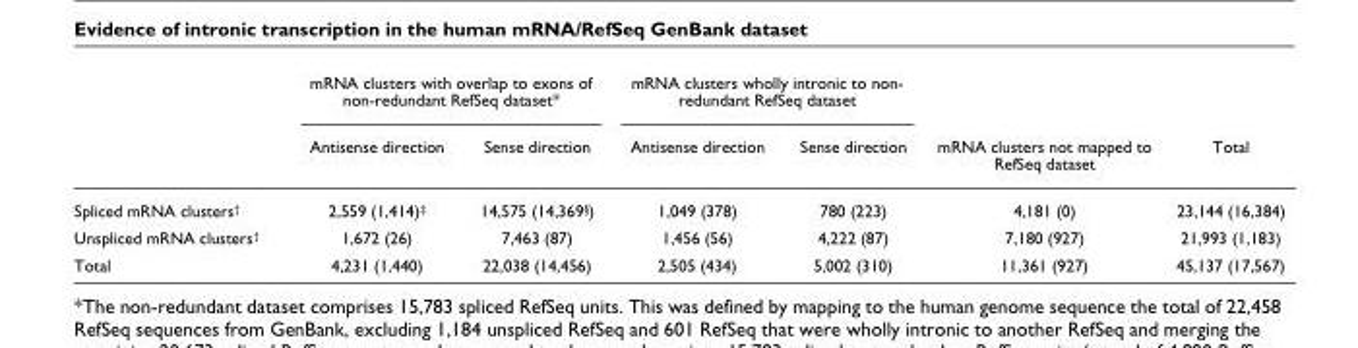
<table><thead><tr><td rowspan="2"></td><td colspan="2">mRNA clusters with overlap to exons of non-redundant RefSeq dataset*</td><td colspan="2">mRNA clusters wholly intronic to non- redundant RefSeq dataset</td><td rowspan="2">mRNA clusters not mapped to RefSeq dataset</td><td rowspan="2">Total</td></tr><tr><td>Antisense direction</td><td>Sense direction</td><td>Antisense direction</td><td>Sense direction</td></tr></thead><tbody><tr><td>Spliced mRNA clusters<sup>†</sup></td><td>2,559 (1,414)<sup>‡</sup></td><td>14,575 (14,369<sup>§</sup>)</td><td>1,049 (378)</td><td>780 (223)</td><td>4,181 (0)</td><td>23,144 (16,384)</td></tr><tr><td>Unspliced mRNA clusters<sup>†</sup></td><td>1,672 (26)</td><td>7,463 (87)</td><td>1,456 (56)</td><td>4,222 (87)</td><td>7,180 (927)</td><td>21,993 (1,183)</td></tr><tr><td>Total</td><td>4,231 (1,440)</td><td>22,038 (14,456)</td><td>2,505 (434)</td><td>5,002 (310)</td><td>11,361 (927)</td><td>45,137 (17,567)</td></tr></tbody></table>